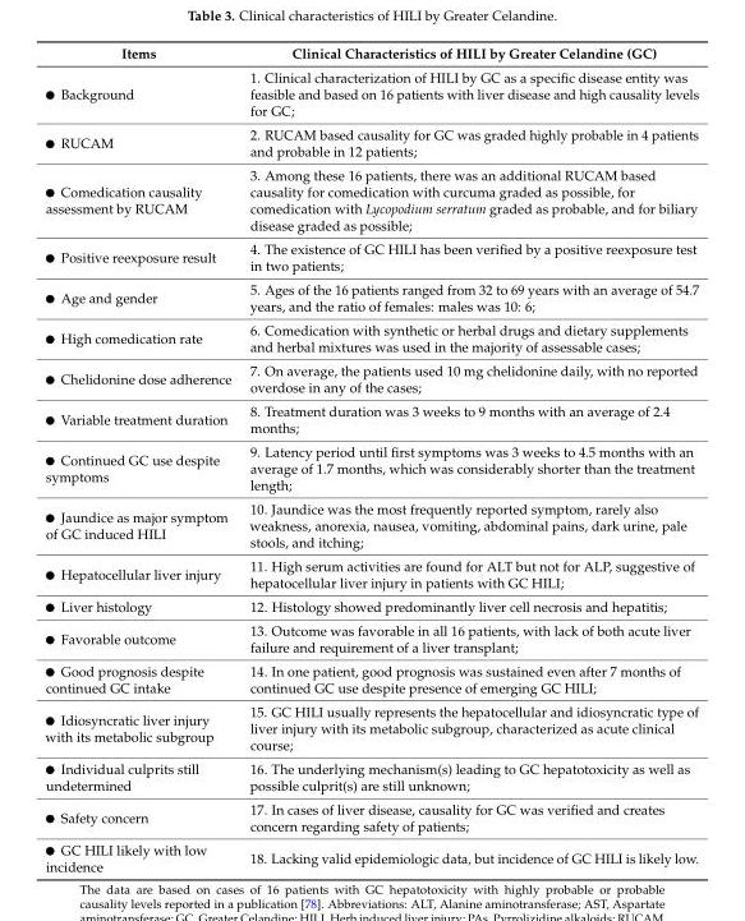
<table><thead><tr><td>Items</td><td>Clinical Characteristics of HILI by Greater Celandine (GC)</td></tr></thead><tbody><tr><td>Background</td><td>1. Clinical characterization of HILI by GC as a specific disease entity was feasible and based on 16 patients with liver disease and high causality levels for GC;</td></tr><tr><td>RUCAM</td><td>2. RUCAM based causality for GC was graded highly probable in 4 patients and probable in 12 patients;</td></tr><tr><td>Comedication causality assessment by RUCAM</td><td>3. Among these 16 patients, there was an additional RUCAM based causality for comedication with curcuma graded as possible, for comedication with Lycopodium serratum graded as probable, and for biliary disease graded as possible;</td></tr><tr><td>Positive reexposure result</td><td>4. The existence of GC HILI has been verified by a positive reexposure test in two patients;</td></tr><tr><td>Age and gender</td><td>5. Ages of the 16 patients ranged from 32 to 69 years with an average of 54.7 years, and the ratio of females: males was 10: 6;</td></tr><tr><td>High comedication rate</td><td>6. Comedication with synthetic or herbal drugs and dietary supplements and herbal mixtures was used in the majority of assessable cases;</td></tr><tr><td>Chelidonine dose adherence</td><td>7. On average, the patients used 10 mg chelidonine daily, with no reported overdose in any of the cases;</td></tr><tr><td>Variable treatment duration</td><td>8. Treatment duration was 3 weeks to 9 months with an average of 2.4 months;</td></tr><tr><td>Continued GC use despite symptoms</td><td>9. Latency period until first symptoms was 3 weeks to 4.5 months with an average of 1.7 months, which was considerably shorter than the treatment length;</td></tr><tr><td>Jaundice as major symptom of GC induced HILI</td><td>10. Jaundice was the most frequently reported symptom, rarely also weakness, anorexia, nausea, vomiting, abdominal pains, dark urine, pale stools, and itching;</td></tr><tr><td>Hepatocellular liver injury</td><td>11. High serum activities are found for ALT but not for ALP, suggestive of hepatocellular liver injury in patients with GC HILI;</td></tr><tr><td>Liver histology</td><td>12. Histology showed predominantly liver cell necrosis and hepatitis;</td></tr><tr><td>Favorable outcome</td><td>13. Outcome was favorable in all 16 patients, with lack of both acute liver failure and requirement of a liver transplant;</td></tr><tr><td>Good prognosis despite continued GC intake</td><td>14. In one patient, good prognosis was sustained even after 7 months of continued GC use despite presence of emerging GC HILI;</td></tr><tr><td>Idiosyncratic liver injury with its metabolic subgroup</td><td>15. GC HILI usually represents the hepatocellular and idiosyncratic type of liver injury with its metabolic subgroup, characterized as acute clinical course;</td></tr><tr><td>Individual culprits still undetermined</td><td>16. The underlying mechanism(s) leading to GC hepatotoxicity as well as possible culprit(s) are still unknown;</td></tr><tr><td>Safety concern</td><td>17. In cases of liver disease, causality for GC was verified and creates concern regarding safety of patients;</td></tr><tr><td>GC HILI likely with low incidence</td><td>18. Lacking valid epidemiologic data, but incidence of GC HILI is likely low.</td></tr></tbody></table>